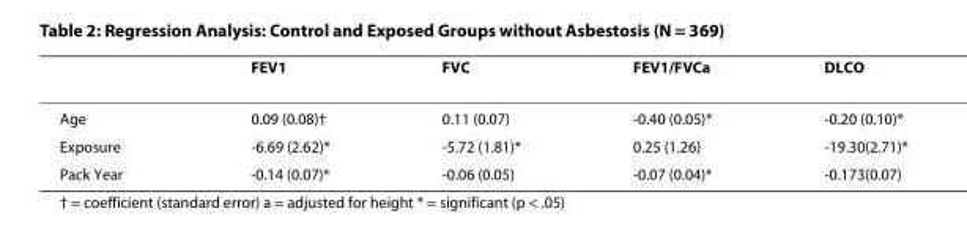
<table><thead><tr><td></td><td>FEV1</td><td>FVC</td><td>FEV1/FVCa</td><td>DLCO</td></tr></thead><tbody><tr><td>Age</td><td>0.09 (0.08)†</td><td>0.11 (0.07)</td><td>-0.40 (0.05)*</td><td>-0.20 (0.10)*</td></tr><tr><td>Exposure</td><td>-6.69 (2.62)*</td><td>-5.72 (1.81)*</td><td>0.25 (1.26)</td><td>-19.30(2.71)*</td></tr><tr><td>Pack Year</td><td>-0.14 (0.07)*</td><td>-0.06 (0.05)</td><td>-0.07 (0.04)*</td><td>-0.173(0.07)</td></tr></tbody></table>